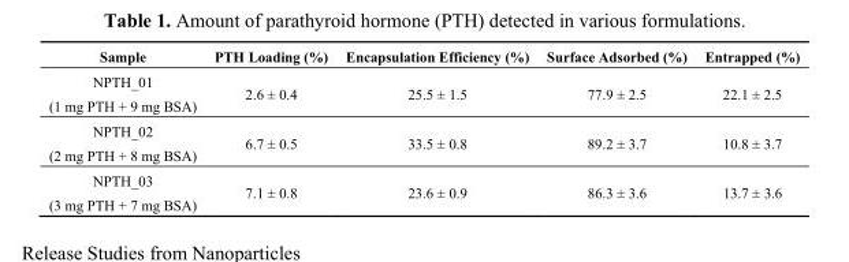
<table><thead><tr><td>Sample</td><td>PTH Loading (%)</td><td>Encapsulation Efficiency (%)</td><td>Surface Adsorbed (%)</td><td>Entrapped (%)</td></tr></thead><tbody><tr><td>NPTH_01 (1 mg PTH + 9 mg BSA)</td><td>2.6 ± 0.4</td><td>25.5 ± 1.5</td><td>77.9 ± 2.5</td><td>22.1 ± 2.5</td></tr><tr><td>NPTH_02 (2 mg PTH + 8 mg BSA)</td><td>6.7 ± 0.5</td><td>33.5 ± 0.8</td><td>89.2 ± 3.7</td><td>10.8 ± 3.7</td></tr><tr><td>NPTH_03 (3 mg PTH + 7 mg BSA)</td><td>7.1 ± 0.8</td><td>23.6 ± 0.9</td><td>86.3 ± 3.6</td><td>13.7 ± 3.6</td></tr></tbody></table>